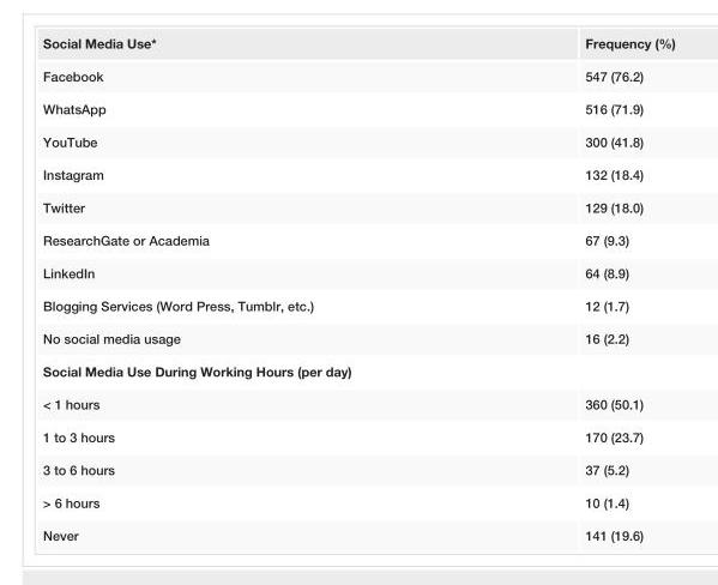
<table><tbody><tr><td>Social Media Use*</td><td>Frequency (%)</td></tr><tr><td>Facebook</td><td>547 (76.2)</td></tr><tr><td>WhatsApp</td><td>516 (71.9)</td></tr><tr><td>YouTube</td><td>300 (41.8)</td></tr><tr><td>Instagram</td><td>132 (18.4)</td></tr><tr><td>Twitter</td><td>129 (18.0)</td></tr><tr><td>ResearchGate or Academia</td><td>67 (9.3)</td></tr><tr><td>LinkedIn</td><td>64 (8.9)</td></tr><tr><td>Blogging Services (Word Press, Tumblr, etc.)</td><td>12 (1.7)</td></tr><tr><td>No social media usage</td><td>16 (2.2)</td></tr><tr><td colspan="2">Social Media Use During Working Hours (per day)</td></tr><tr><td>&lt; 1 hours</td><td>360 (50.1)</td></tr><tr><td>1 to 3 hours</td><td>170 (23.7)</td></tr><tr><td>3 to 6 hours</td><td>37 (5.2)</td></tr><tr><td>&gt; 6 hours</td><td>10 (1.4)</td></tr><tr><td>Never</td><td>141 (19.6)</td></tr></tbody></table>